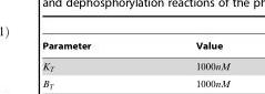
<table><thead><tr><td>Parameter</td><td>Value</td></tr></thead><tbody></tbody></table>